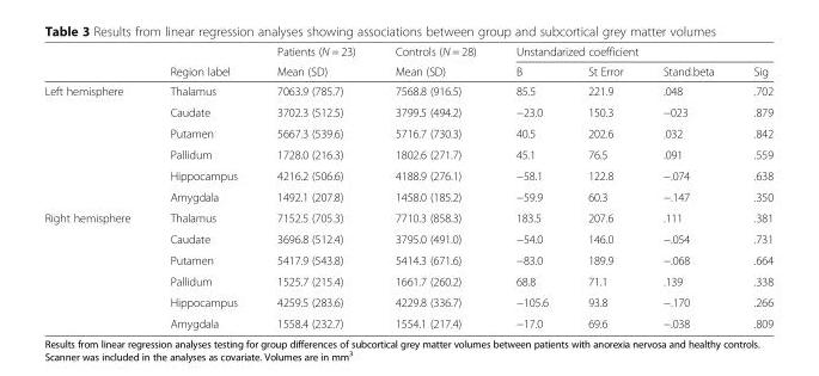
<table><thead><tr><td rowspan="2"></td><td rowspan="2">Region label</td><td rowspan="2">Patients (N = 23) Mean (SD)</td><td rowspan="2">Controls (N = 28) Mean (SD)</td><td colspan="4">Unstandarized coefficient</td></tr><tr><td>B</td><td>St Error</td><td>Stand.beta</td><td>Sig</td></tr></thead><tbody><tr><td rowspan="6">Left hemisphere</td><td>Thalamus</td><td>7063.9 (785.7)</td><td>7568.8 (916.5)</td><td>85.5</td><td>221.9</td><td>.048</td><td>.702</td></tr><tr><td>Caudate</td><td>3702.3 (512.5)</td><td>3799.5 (494.2)</td><td>−23.0</td><td>150.3</td><td>−023</td><td>.879</td></tr><tr><td>Putamen</td><td>5667.3 (539.6)</td><td>5716.7 (730.3)</td><td>40.5</td><td>202.6</td><td>.032</td><td>.842</td></tr><tr><td>Pallidum</td><td>1728.0 (216.3)</td><td>1802.6 (271.7)</td><td>45.1</td><td>76.5</td><td>.091</td><td>.559</td></tr><tr><td>Hippocampus</td><td>4216.2 (506.6)</td><td>4188.9 (276.1)</td><td>−58.1</td><td>122.8</td><td>−.074</td><td>.638</td></tr><tr><td>Amygdala</td><td>1492.1 (207.8)</td><td>1458.0 (185.2)</td><td>−59.9</td><td>60.3</td><td>−.147</td><td>.350</td></tr><tr><td rowspan="6">Right hemisphere</td><td>Thalamus</td><td>7152.5 (705.3)</td><td>7710.3 (858.3)</td><td>183.5</td><td>207.6</td><td>.111</td><td>.381</td></tr><tr><td>Caudate</td><td>3696.8 (512.4)</td><td>3795.0 (491.0)</td><td>−54.0</td><td>146.0</td><td>−.054</td><td>.731</td></tr><tr><td>Putamen</td><td>5417.9 (543.8)</td><td>5414.3 (671.6)</td><td>−83.0</td><td>189.9</td><td>−.068</td><td>.664</td></tr><tr><td>Pallidum</td><td>1525.7 (215.4)</td><td>1661.7 (260.2)</td><td>68.8</td><td>71.1</td><td>.139</td><td>.338</td></tr><tr><td>Hippocampus</td><td>4259.5 (283.6)</td><td>4229.8 (336.7)</td><td>−105.6</td><td>93.8</td><td>−.170</td><td>.266</td></tr><tr><td>Amygdala</td><td>1558.4 (232.7)</td><td>1554.1 (217.4)</td><td>−17.0</td><td>69.6</td><td>−.038</td><td>.809</td></tr></tbody></table>